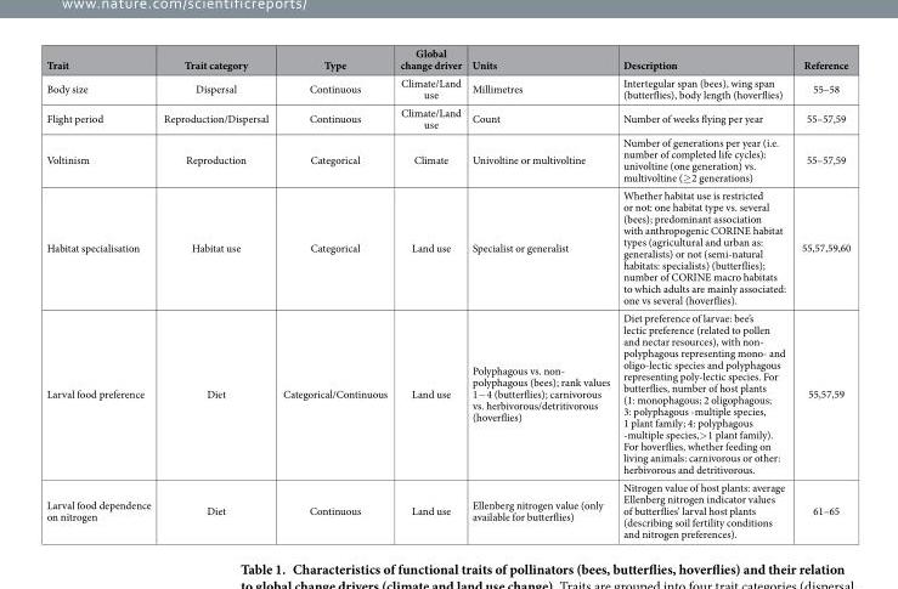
<table><thead><tr><td>Trait</td><td>Trait category</td><td>Type</td><td>Global change driver</td><td>Units</td><td>Description</td><td>Reference</td></tr></thead><tbody><tr><td>Body size</td><td>Dispersal</td><td>Continuous</td><td>Climate/Land use</td><td>Millimetres</td><td>Intertegular span (bees), wing span (butterflies), body length (hoverflies)</td><td>55–58</td></tr><tr><td>Flight period</td><td>Reproduction/Dispersal</td><td>Continuous</td><td>Climate/Land use</td><td>Count</td><td>Number of weeks flying per year</td><td>55–57,59</td></tr><tr><td>Voltinism</td><td>Reproduction</td><td>Categorical</td><td>Climate</td><td>Univoltine or multivoltine</td><td>Number of generations per year (i.e. number of completed life cycles): univoltine (one generation) vs. multivoltine (≥ 2 generations)</td><td>55–57,59</td></tr><tr><td>Habitat specialisation</td><td>Habitat use</td><td>Categorical</td><td>Land use</td><td>Specialist or generalist</td><td>Whether habitat use is restricted or not: one habitat type vs. several (bees); predominant association with anthropogenic CORINE habitat types (agricultural and urban as: generalists) or not (semi-natural habitats: specialists) (butterflies); number of CORINE macro habitats to which adults are mainly associated: one vs several (hoverflies).</td><td>55,57,59,60</td></tr><tr><td>Larval food preference</td><td>Diet</td><td>Categorical/Continuous</td><td>Land use</td><td>Polyphagous vs. non- polyphagous (bees); rank values 1− 4 (butterflies); carnivorous vs. herbivorous/detritivorous (hoverflies)</td><td>Diet preference of larvae: bee’s lectic preference (related to pollen and nectar resources), with non- polyphagous representing mono- and oligo-lectic species and polyphagous representing poly-lectic species. For butterflies, number of host plants (1: monophagous; 2 oligophagous; 3: polyphagous -multiple species, 1 plant family; 4: polyphagous -multiple species,&gt; 1 plant family). For hoverflies, whether feeding on living animals: carnivorous or other: herbivorous and detritivorous.</td><td>55,57,59</td></tr><tr><td>Larval food dependence on nitrogen</td><td>Diet</td><td>Continuous</td><td>Land use</td><td>Ellenberg nitrogen value (only available for butterflies)</td><td>Nitrogen value of host plants: average Ellenberg nitrogen indicator values of butterflies’ larval host plants (describing soil fertility conditions and nitrogen preferences).</td><td>61–65</td></tr></tbody></table>